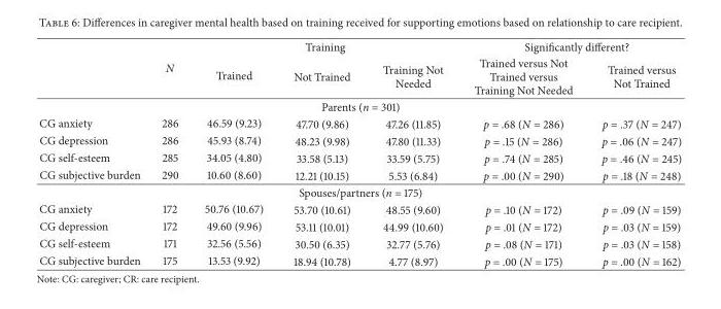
<table><thead><tr><td rowspan="2"></td><td rowspan="2">N</td><td colspan="3">Training</td><td colspan="2">Significantly different?</td></tr><tr><td>Trained</td><td>Not Trained</td><td>Training Not Needed</td><td>Trained versus Not Trained versus Training Not Needed</td><td>Trained versus Not Trained</td></tr></thead><tbody><tr><td colspan="7">Parents (n = 301)</td></tr><tr><td>CG anxiety</td><td>286</td><td>46.59 (9.23)</td><td>47.70 (9.86)</td><td>47.26 (11.85)</td><td>p = .68 (N = 286)</td><td>p = .37 (N = 247)</td></tr><tr><td>CG depression</td><td>286</td><td>45.93 (8.74)</td><td>48.23 (9.98)</td><td>47.80 (11.33)</td><td>p = .15 (N = 286)</td><td>p = .06 (N = 247)</td></tr><tr><td>CG self-esteem</td><td>285</td><td>34.05 (4.80)</td><td>33.58 (5.13)</td><td>33.59 (5.75)</td><td>p = .74 (N = 285)</td><td>p = .46 (N = 245)</td></tr><tr><td>CG subjective burden</td><td>290</td><td>10.60 (8.60)</td><td>12.21 (10.15)</td><td>5.53 (6.84)</td><td>p = .00 (N = 290)</td><td>p = .18 (N = 248)</td></tr><tr><td colspan="7">Spouses/partners (n = 175)</td></tr><tr><td>CG anxiety</td><td>172</td><td>50.76 (10.67)</td><td>53.70 (10.61)</td><td>48.55 (9.60)</td><td>p = .10 (N = 172)</td><td>p = .09 (N = 159)</td></tr><tr><td>CG depression</td><td>172</td><td>49.60 (9.96)</td><td>53.11 (10.01)</td><td>44.99 (10.60)</td><td>p = .01 (N = 172)</td><td>p = .03 (N = 159)</td></tr><tr><td>CG self-esteem</td><td>171</td><td>32.56 (5.56)</td><td>30.50 (6.35)</td><td>32.77 (5.76)</td><td>p = .08 (N = 171)</td><td>p = .03 (N = 158)</td></tr><tr><td>CG subjective burden</td><td>175</td><td>13.53 (9.92)</td><td>18.94 (10.78)</td><td>4.77 (8.97)</td><td>p = .00 (N = 175)</td><td>p = .00 (N = 162)</td></tr></tbody></table>